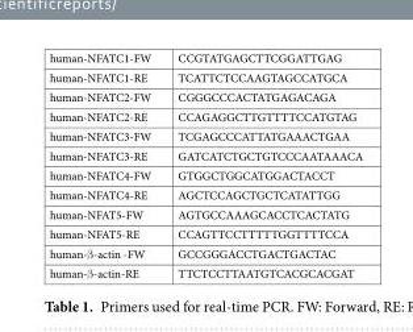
<table><tbody><tr><td>human-NFATC1-FW</td><td>CCGTATGAGCTTCGGATTGAG</td></tr><tr><td>human-NFATC1-RE</td><td>TCATTCTCCAAGTAGCCATGCA</td></tr><tr><td>human-NFATC2-FW</td><td>CGGGCCCACTATGAGACAGA</td></tr><tr><td>human-NFATC2-RE</td><td>CCAGAGGCTTGTTTTCCATGTAG</td></tr><tr><td>human-NFATC3-FW</td><td>TCGAGCCCATTATGAAACTGAA</td></tr><tr><td>human-NFATC3-RE</td><td>GATCATCTGCTGTCCCAATAAACA</td></tr><tr><td>human-NFATC4-FW</td><td>GTGGCTGGCATGGACTACCT</td></tr><tr><td>human-NFATC4-RE</td><td>AGCTCCAGCTGCTCATATTGG</td></tr><tr><td>human-NFAT5-FW</td><td>AGTGCCAAAGCACCTCACTATG</td></tr><tr><td>human-NFAT5-RE</td><td>CCAGTTCCTTTTTGGTTTTCCA</td></tr><tr><td>human-β-actin -FW</td><td>GCCGGGACCTGACTGACTAC</td></tr><tr><td>human-β-actin-RE</td><td>TTCTCCTTAATGTCACGCACGAT</td></tr></tbody></table>